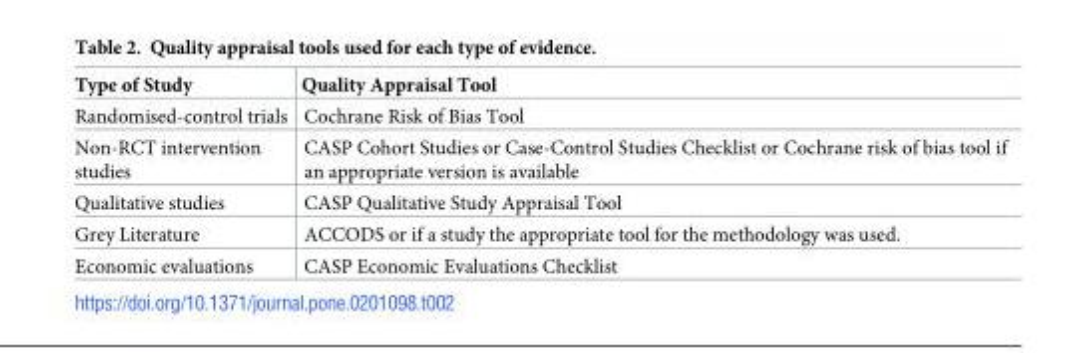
<table><thead><tr><td>Type of Study</td><td>Quality Appraisal Tool</td></tr></thead><tbody><tr><td>Randomised-control trials</td><td>Cochrane Risk of Bias Tool</td></tr><tr><td>Non-RCT intervention studies</td><td>CASP Cohort Studies or Case-Control Studies Checklist or Cochrane risk of bias tool if an appropriate version is available</td></tr><tr><td>Qualitative studies</td><td>CASP Qualitative Study Appraisal Tool</td></tr><tr><td>Grey Literature</td><td>ACCODS or if a study the appropriate tool for the methodology was used.</td></tr><tr><td>Economic evaluations</td><td>CASP Economic Evaluations Checklist</td></tr></tbody></table>